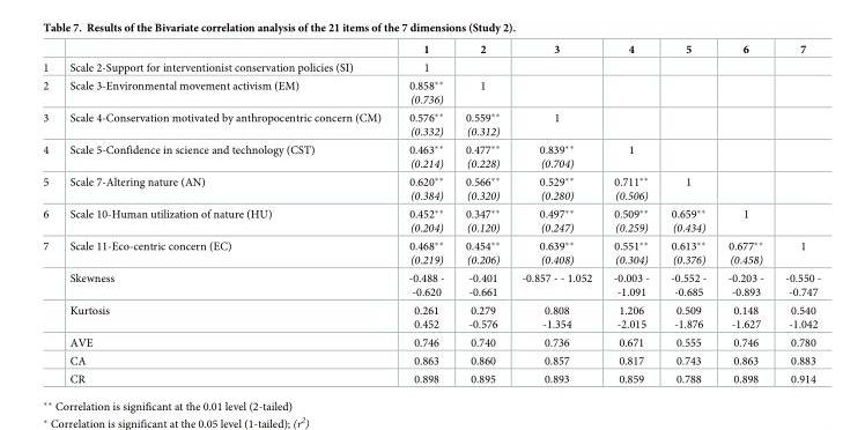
<table><thead><tr><td></td><td></td><td>1</td><td>2</td><td>3</td><td>4</td><td>5</td><td>6</td><td>7</td></tr></thead><tbody><tr><td>1</td><td>Scale 2-Support for interventionist conservation policies (SI)</td><td>1</td><td></td><td></td><td></td><td></td><td></td><td></td></tr><tr><td>2</td><td>Scale 3-Environmental movement activism (EM)</td><td>0.858** (0.736)</td><td>1</td><td></td><td></td><td></td><td></td><td></td></tr><tr><td>3</td><td>Scale 4-Conservation motivated by anthropocentric concern (CM)</td><td>0.576** (0.332)</td><td>0.559** (0.312)</td><td>1</td><td></td><td></td><td></td><td></td></tr><tr><td>4</td><td>Scale 5-Confidence in science and technology (CST)</td><td>0.463** (0.214)</td><td>0.477** (0.228)</td><td>0.839** (0.704)</td><td>1</td><td></td><td></td><td></td></tr><tr><td>5</td><td>Scale 7-Altering nature (AN)</td><td>0.620** (0.384)</td><td>0.566** (0.320)</td><td>0.529** (0.280)</td><td>0.711** (0.506)</td><td>1</td><td></td><td></td></tr><tr><td>6</td><td>Scale 10-Human utilization of nature (HU)</td><td>0.452** (0.204)</td><td>0.347** (0.120)</td><td>0.497** (0.247)</td><td>0.509** (0.259)</td><td>0.659** (0.434)</td><td>1</td><td></td></tr><tr><td rowspan="6">7</td><td>Scale 11-Eco-centric concern (EC)</td><td>0.468** (0.219)</td><td>0.454** (0.206)</td><td>0.639** (0.408)</td><td>0.551** (0.304)</td><td>0.613** (0.376)</td><td>0.677** (0.458)</td><td>1</td></tr><tr><td>Skewness</td><td>-0.488 - -0.620</td><td>-0.401 -0.661</td><td>-0.857 - - 1.052</td><td>-0.003 - -1.091</td><td>-0.552 - -0.685</td><td>-0.203 - -0.893</td><td>-0.550 - -0.747</td></tr><tr><td>Kurtosis</td><td>0.261 0.452</td><td>0.279 -0.576</td><td>0.808 -1.354</td><td>1.206 -2.015</td><td>0.509 -1.876</td><td>0.148 -1.627</td><td>0.540 -1.042</td></tr><tr><td>AVE</td><td>0.746</td><td>0.740</td><td>0.736</td><td>0.671</td><td>0.555</td><td>0.746</td><td>0.780</td></tr><tr><td>CA</td><td>0.863</td><td>0.860</td><td>0.857</td><td>0.817</td><td>0.743</td><td>0.863</td><td>0.883</td></tr><tr><td>CR</td><td>0.898</td><td>0.895</td><td>0.893</td><td>0.859</td><td>0.788</td><td>0.898</td><td>0.914</td></tr></tbody></table>